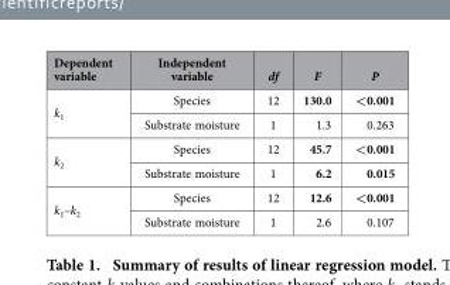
<table><thead><tr><td>Dependent variable</td><td>Independent variable</td><td>df</td><td>F</td><td>P</td></tr></thead><tbody><tr><td rowspan="2">k<sub>1</sub></td><td>Species</td><td>12</td><td>130.0</td><td>&lt;0.001</td></tr><tr><td>Substrate moisture</td><td>1</td><td>1.3</td><td>0.263</td></tr><tr><td rowspan="2">k<sub>2</sub></td><td>Species</td><td>12</td><td>45.7</td><td>&lt;0.001</td></tr><tr><td>Substrate moisture</td><td>1</td><td>6.2</td><td>0.015</td></tr><tr><td rowspan="2">k<sub>1</sub>–k<sub>2</sub></td><td>Species</td><td>12</td><td>12.6</td><td>&lt;0.001</td></tr><tr><td>Substrate moisture</td><td>1</td><td>2.6</td><td>0.107</td></tr></tbody></table>